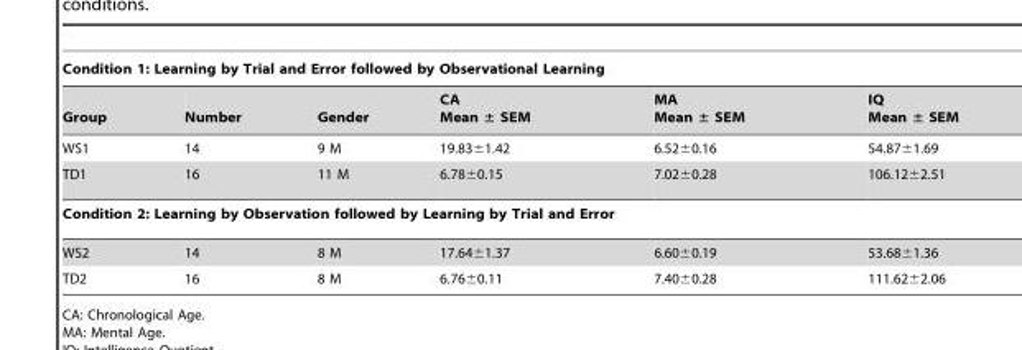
<table><thead><tr><td colspan="6">Condition 1: Learning by Trial and Error followed by Observational Learning</td></tr><tr><td>Group</td><td>Number</td><td>Gender</td><td>CA Mean ± SEM</td><td>MA Mean ± SEM</td><td>IQ Mean ± SEM</td></tr></thead><tbody><tr><td>WS1</td><td>14</td><td>9 M</td><td>19.83±1.42</td><td>6.52±0.16</td><td>54.87±1.69</td></tr><tr><td>TD1</td><td>16</td><td>11 M</td><td>6.78±0.15</td><td>7.02±0.28</td><td>106.12±2.51</td></tr><tr><td colspan="6">Condition 2: Learning by Observation followed by Learning by Trial and Error</td></tr><tr><td>WS2</td><td>14</td><td>8 M</td><td>17.64±1.37</td><td>6.60±0.19</td><td>53.68±1.36</td></tr><tr><td>TD2</td><td>16</td><td>8 M</td><td>6.76±0.11</td><td>7.40±0.28</td><td>111.62±2.06</td></tr></tbody></table>